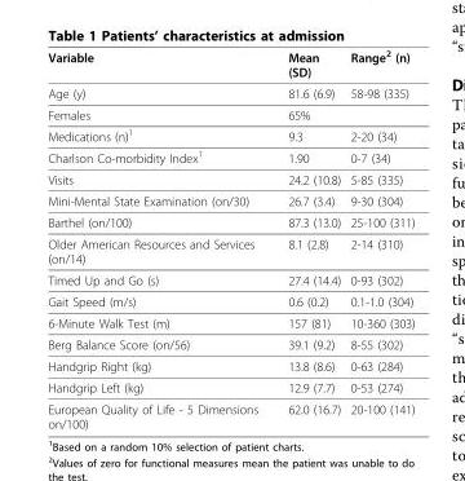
<table><thead><tr><td>Variable</td><td>Mean (SD)</td><td>Range<sup>2</sup> (n)</td></tr></thead><tbody><tr><td>Age (y)</td><td>81.6 (6.9)</td><td>58-98 (335)</td></tr><tr><td>Females</td><td>65%</td><td></td></tr><tr><td>Medications (n)<sup>1</sup></td><td>9.3</td><td>2-20 (34)</td></tr><tr><td>Charlson Co-morbidity Index<sup>1</sup></td><td>1.90</td><td>0-7 (34)</td></tr><tr><td>Visits</td><td>24.2 (10.8)</td><td>5-85 (335)</td></tr><tr><td>Mini-Mental State Examination (on/30)</td><td>26.7 (3.4)</td><td>9-30 (304)</td></tr><tr><td>Barthel (on/100)</td><td>87.3 (13.0)</td><td>25-100 (311)</td></tr><tr><td>Older American Resources and Services (on/14)</td><td>8.1 (2.8)</td><td>2-14 (310)</td></tr><tr><td>Timed Up and Go (s)</td><td>27.4 (14.4)</td><td>0-93 (302)</td></tr><tr><td>Gait Speed (m/s)</td><td>0.6 (0.2)</td><td>0.1-1.0 (304)</td></tr><tr><td>6-Minute Walk Test (m)</td><td>157 (81)</td><td>10-360 (303)</td></tr><tr><td>Berg Balance Score (on/56)</td><td>39.1 (9.2)</td><td>8-55 (302)</td></tr><tr><td>Handgrip Right (kg)</td><td>13.8 (8.6)</td><td>0-63 (284)</td></tr><tr><td>Handgrip Left (kg)</td><td>12.9 (7.7)</td><td>0-53 (274)</td></tr><tr><td>European Quality of Life - 5 Dimensions on/100)</td><td>62.0 (16.7)</td><td>20-100 (141)</td></tr></tbody></table>